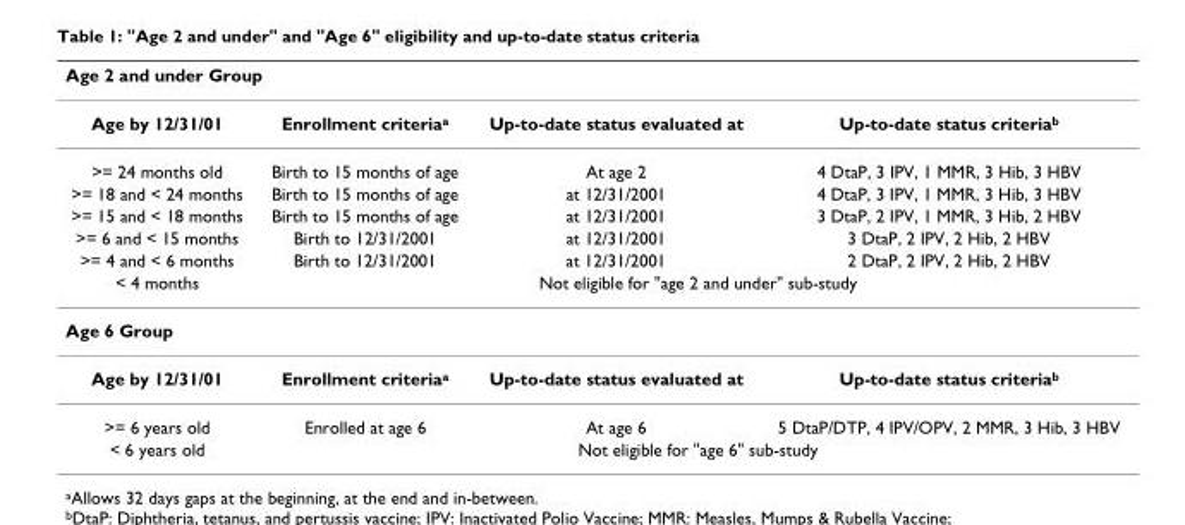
<table><thead><tr><td colspan="4">Age 2 and under Group</td></tr><tr><td>Age by 12/31/01</td><td>Enrollment criteria<sup>a</sup></td><td>Up-to-date status evaluated at</td><td>Up-to-date status criteria<sup>b</sup></td></tr></thead><tbody><tr><td>&gt;= 24 months old</td><td>Birth to 15 months of age</td><td>At age 2</td><td>4 DtaP, 3 IPV, 1 MMR, 3 Hib, 3 HBV</td></tr><tr><td>&gt;= 18 and &lt; 24 months</td><td>Birth to 15 months of age</td><td>at 12/31/2001</td><td>4 DtaP, 3 IPV, 1 MMR, 3 Hib, 3 HBV</td></tr><tr><td>&gt;= 15 and &lt; 18 months</td><td>Birth to 15 months of age</td><td>at 12/31/2001</td><td>3 DtaP, 2 IPV, 1 MMR, 3 Hib, 2 HBV</td></tr><tr><td>&gt;= 6 and &lt; 15 months</td><td>Birth to 12/31/2001</td><td>at 12/31/2001</td><td>3 DtaP, 2 IPV, 2 Hib, 2 HBV</td></tr><tr><td>&gt;= 4 and &lt; 6 months</td><td>Birth to 12/31/2001</td><td>at 12/31/2001</td><td>2 DtaP, 2 IPV, 2 Hib, 2 HBV</td></tr><tr><td>&lt; 4 months</td><td colspan="3">Not eligible for &quot;age 2 and under&quot; sub-study</td></tr><tr><td colspan="4">Age 6 Group</td></tr><tr><td>Age by 12/31/01</td><td>Enrollment criteria<sup>a</sup></td><td>Up-to-date status evaluated at</td><td>Up-to-date status criteria<sup>b</sup></td></tr><tr><td>&gt;= 6 years old</td><td>Enrolled at age 6</td><td>At age 6</td><td>5 DtaP/DTP, 4 IPV/OPV, 2 MMR, 3 Hib, 3 HBV</td></tr><tr><td>&lt; 6 years old</td><td colspan="3">Not eligible for &quot;age 6&quot; sub-study</td></tr></tbody></table>